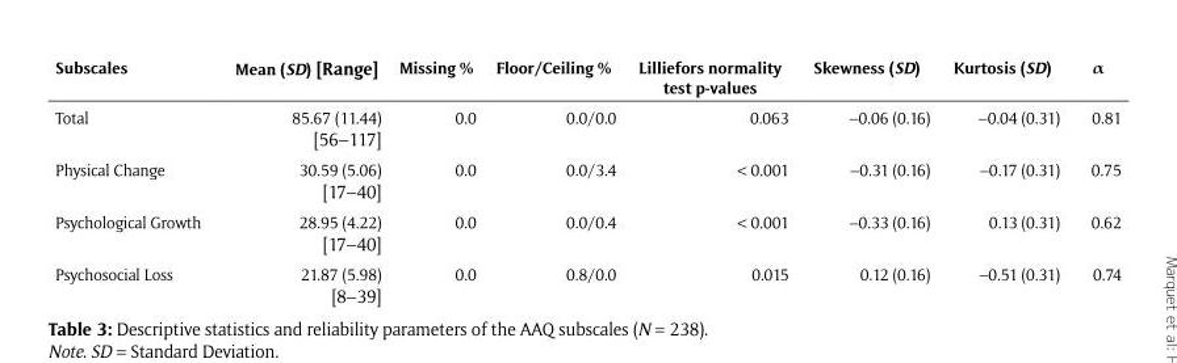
<table><thead><tr><td>Subscales</td><td>Mean (SD) [Range]</td><td>Missing %</td><td>Floor/Ceiling %</td><td>Lilliefors normality test p-values</td><td>Skewness (SD)</td><td>Kurtosis (SD)</td><td>α</td></tr></thead><tbody><tr><td>Total</td><td>85.67 (11.44) [56–117]</td><td>0.0</td><td>0.0/0.0</td><td>0.063</td><td>–0.06 (0.16)</td><td>–0.04 (0.31)</td><td>0.81</td></tr><tr><td>Physical Change</td><td>30.59 (5.06) [17–40]</td><td>0.0</td><td>0.0/3.4</td><td>&lt; 0.001</td><td>–0.31 (0.16)</td><td>–0.17 (0.31)</td><td>0.75</td></tr><tr><td>Psychological Growth</td><td>28.95 (4.22) [17–40]</td><td>0.0</td><td>0.0/0.4</td><td>&lt; 0.001</td><td>–0.33 (0.16)</td><td>0.13 (0.31)</td><td>0.62</td></tr><tr><td>Psychosocial Loss</td><td>21.87 (5.98) [8–39]</td><td>0.0</td><td>0.8/0.0</td><td>0.015</td><td>0.12 (0.16)</td><td>–0.51 (0.31)</td><td>0.74</td></tr></tbody></table>